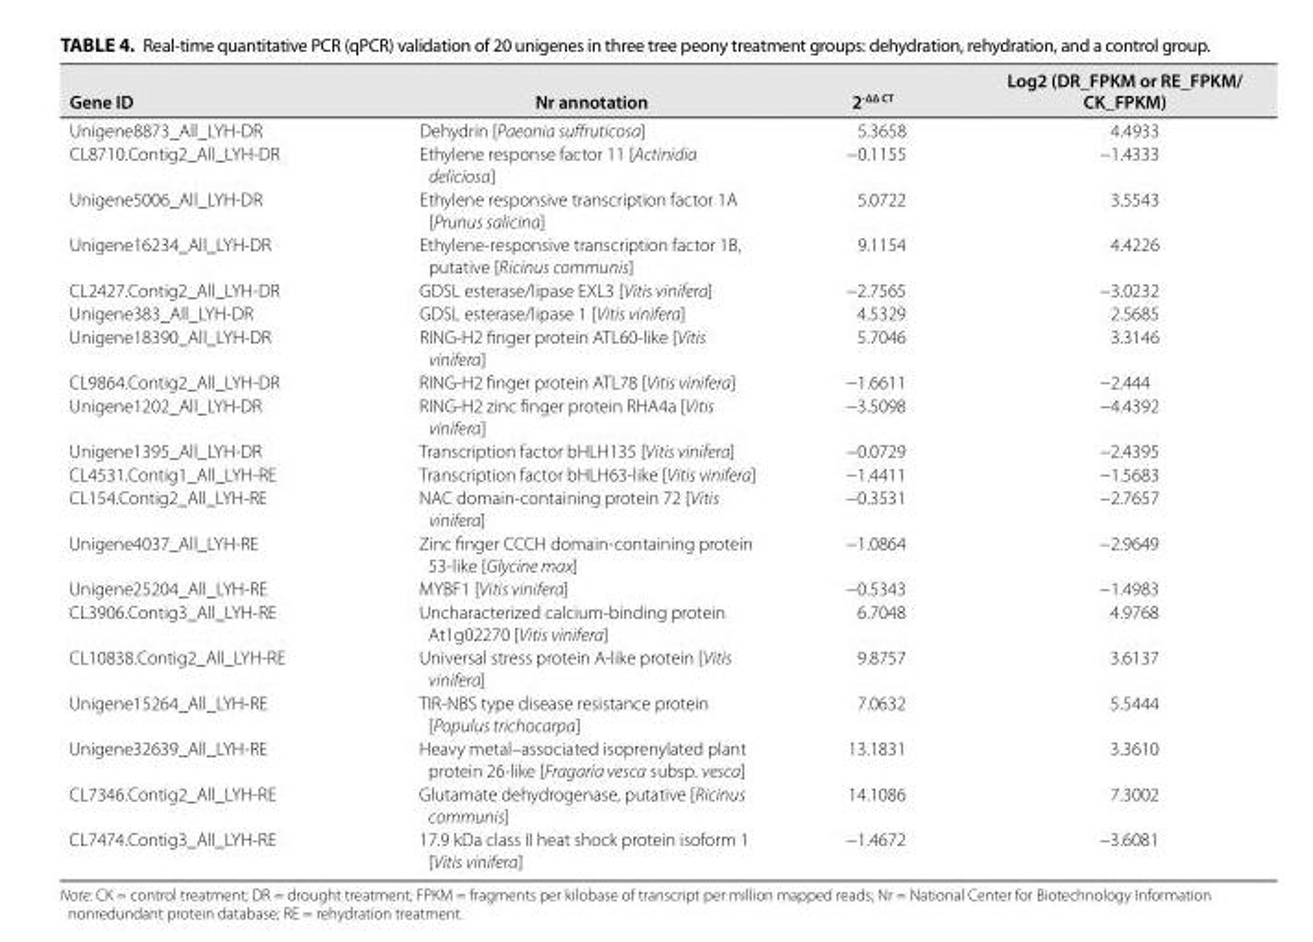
<table><thead><tr><td>Gene ID</td><td>Nr annotation</td><td>2<sup>-ΔΔ CT</sup></td><td>Log2 (DR_FPKM or RE_FPKM/ CK_FPKM)</td></tr></thead><tbody><tr><td>Unigene8873_All_LYH- DR</td><td>Dehydrin [Paeonia suffruticosa]</td><td>5.3658</td><td>4.4933</td></tr><tr><td>CL8710.Contig2_All_LYH- DR</td><td>Ethylene response factor 11 [Actinidia deliciosa]</td><td>−0.1155</td><td>−1.4333</td></tr><tr><td>Unigene5006_All_LYH- DR</td><td>Ethylene responsive transcription factor 1A [Prunus salicina]</td><td>5.0722</td><td>3.5543</td></tr><tr><td>Unigene16234_All_LYH- DR</td><td>Ethylene- responsive transcription factor 1B, putative [Ricinus communis]</td><td>9.1154</td><td>4.4226</td></tr><tr><td>CL2427.Contig2_All_LYH- DR</td><td>GDSL esterase/lipase EXL3 [Vitis vinifera]</td><td>−2.7565</td><td>−3.0232</td></tr><tr><td>Unigene383_All_LYH- DR</td><td>GDSL esterase/lipase 1 [Vitis vinifera]</td><td>4.5329</td><td>2.5685</td></tr><tr><td>Unigene18390_All_LYH- DR</td><td>RING- H2 finger protein ATL60- like [Vitis vinifera]</td><td>5.7046</td><td>3.3146</td></tr><tr><td>CL9864.Contig2_All_LYH- DR</td><td>RING- H2 finger protein ATL78 [Vitis vinifera]</td><td>−1.6611</td><td>−2.444</td></tr><tr><td>Unigene1202_All_LYH- DR</td><td>RING- H2 zinc finger protein RHA4a [Vitis vinifera]</td><td>−3.5098</td><td>−4.4392</td></tr><tr><td>Unigene1395_All_LYH- DR</td><td>Transcription factor bHLH135 [Vitis vinifera]</td><td>−0.0729</td><td>−2.4395</td></tr><tr><td>CL4531.Contig1_All_LYH- RE</td><td>Transcription factor bHLH63- like [Vitis vinifera]</td><td>−1.4411</td><td>−1.5683</td></tr><tr><td>CL154.Contig2_All_LYH- RE</td><td>NAC domain- containing protein 72 [Vitis vinifera]</td><td>−0.3531</td><td>−2.7657</td></tr><tr><td>Unigene4037_All_LYH- RE</td><td>Zinc finger CCCH domain- containing protein 53- like [Glycine max]</td><td>−1.0864</td><td>−2.9649</td></tr><tr><td>Unigene25204_All_LYH- RE</td><td>MYBF1 [Vitis vinifera]</td><td>−0.5343</td><td>−1.4983</td></tr><tr><td>CL3906.Contig3_All_LYH- RE</td><td>Uncharacterized calcium- binding protein At1g02270 [Vitis vinifera]</td><td>6.7048</td><td>4.9768</td></tr><tr><td>CL10838.Contig2_All_LYH- RE</td><td>Universal stress protein A- like protein [Vitis vinifera]</td><td>9.8757</td><td>3.6137</td></tr><tr><td>Unigene15264_All_LYH- RE</td><td>TIR- NBS type disease resistance protein [Populus trichocarpa]</td><td>7.0632</td><td>5.5444</td></tr><tr><td>Unigene32639_All_LYH- RE</td><td>Heavy metal–associated isoprenylated plant protein 26- like [Fragaria vesca subsp. vesca]</td><td>13.1831</td><td>3.3610</td></tr><tr><td>CL7346.Contig2_All_LYH- RE</td><td>Glutamate dehydrogenase, putative [Ricinus communis]</td><td>14.1086</td><td>7.3002</td></tr><tr><td>CL7474.Contig3_All_LYH- RE</td><td>17.9 kDa class II heat shock protein isoform 1 [Vitis vinifera]</td><td>−1.4672</td><td>−3.6081</td></tr></tbody></table>